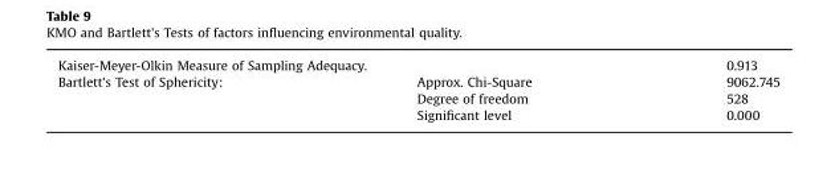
<table><tbody><tr><td colspan="2">Kaiser-Meyer-Olkin Measure of Sampling Adequacy.</td><td>0.913</td></tr><tr><td rowspan="3">Bartlett&#x27;s Test of Sphericity:</td><td>Approx. Chi-Square</td><td>9062.745</td></tr><tr><td>Degree of freedom</td><td>528</td></tr><tr><td>Significant level</td><td>0.000</td></tr></tbody></table>